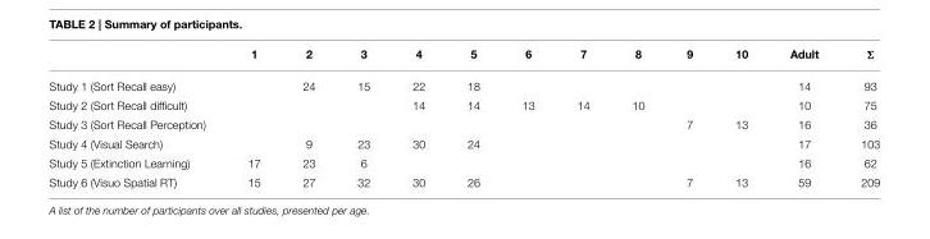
<table><thead><tr><td></td><td>1</td><td>2</td><td>3</td><td>4</td><td>5</td><td>6</td><td>7</td><td>8</td><td>9</td><td>10</td><td>Adult</td><td>Σ</td></tr></thead><tbody><tr><td>Study 1 (Sort Recall easy)</td><td></td><td>24</td><td>15</td><td>22</td><td>18</td><td></td><td></td><td></td><td></td><td></td><td>14</td><td>93</td></tr><tr><td>Study 2 (Sort Recall difficult)</td><td></td><td></td><td></td><td>14</td><td>14</td><td>13</td><td>14</td><td>10</td><td></td><td></td><td>10</td><td>75</td></tr><tr><td>Study 3 (Sort Recall Perception)</td><td></td><td></td><td></td><td></td><td></td><td></td><td></td><td></td><td>7</td><td>13</td><td>16</td><td>36</td></tr><tr><td>Study 4 (Visual Search)</td><td></td><td>9</td><td>23</td><td>30</td><td>24</td><td></td><td></td><td></td><td></td><td></td><td>17</td><td>103</td></tr><tr><td>Study 5 (Extinction Learning)</td><td>17</td><td>23</td><td>6</td><td></td><td></td><td></td><td></td><td></td><td></td><td></td><td>16</td><td>62</td></tr><tr><td>Study 6 (Visuo Spatial RT)</td><td>15</td><td>27</td><td>32</td><td>30</td><td>26</td><td></td><td></td><td></td><td>7</td><td>13</td><td>59</td><td>209</td></tr></tbody></table>